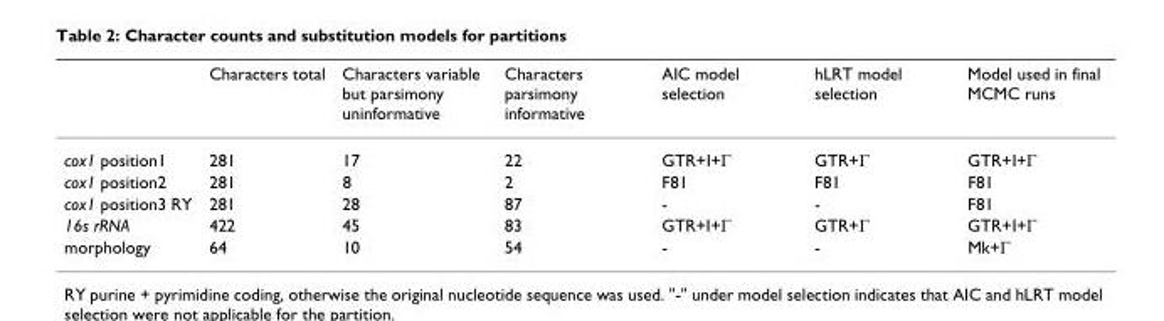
<table><thead><tr><td></td><td>Characters total</td><td>Characters variable but parsimony uninformative</td><td>Characters parsimony informative</td><td>AIC model selection</td><td>hLRT model selection</td><td>Model used in final MCMC runs</td></tr></thead><tbody><tr><td>cox1 position1</td><td>281</td><td>17</td><td>22</td><td>GTR+I+Γ</td><td>GTR+Γ</td><td>GTR+I+Γ</td></tr><tr><td>cox1 position2</td><td>281</td><td>8</td><td>2</td><td>F81</td><td>F81</td><td>F81</td></tr><tr><td>cox1 position3 RY</td><td>281</td><td>28</td><td>87</td><td>-</td><td>-</td><td>F81</td></tr><tr><td>16s rRNA</td><td>422</td><td>45</td><td>83</td><td>GTR+I+Γ</td><td>GTR+Γ</td><td>GTR+I+Γ</td></tr><tr><td>morphology</td><td>64</td><td>10</td><td>54</td><td>-</td><td>-</td><td>Mk+Γ</td></tr></tbody></table>